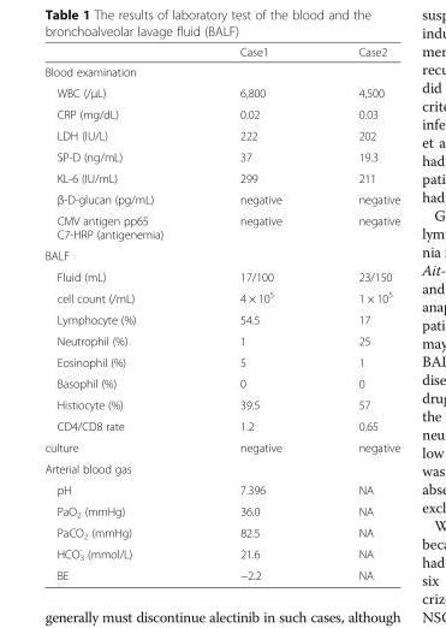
<table><thead><tr><td></td><td>Case1</td><td>Case2</td></tr></thead><tbody><tr><td colspan="3">Blood examination</td></tr><tr><td>WBC (/μL)</td><td>6,800</td><td>4,500</td></tr><tr><td>CRP (mg/dL)</td><td>0.02</td><td>0.03</td></tr><tr><td>LDH (IU/L)</td><td>222</td><td>202</td></tr><tr><td>SP-D (ng/mL)</td><td>37</td><td>19.3</td></tr><tr><td>KL-6 (IU/mL)</td><td>299</td><td>211</td></tr><tr><td>β-D-glucan (pg/mL)</td><td>negative</td><td>negative</td></tr><tr><td>CMV antigen pp65 C7-HRP (antigenemia)</td><td>negative</td><td>negative</td></tr><tr><td colspan="3">BALF</td></tr><tr><td>Fluid (mL)</td><td>17/100</td><td>23/150</td></tr><tr><td>cell count (/mL)</td><td>4 × 10<sup>5</sup></td><td>1 × 10<sup>5</sup></td></tr><tr><td>Lymphocyte (%)</td><td>54.5</td><td>17</td></tr><tr><td>Neutrophil (%)</td><td>1</td><td>25</td></tr><tr><td>Eosinophil (%)</td><td>5</td><td>1</td></tr><tr><td>Basophil (%)</td><td>0</td><td>0</td></tr><tr><td>Histiocyte (%)</td><td>39.5</td><td>57</td></tr><tr><td>CD4/CD8 rate</td><td>1.2</td><td>0.65</td></tr><tr><td>culture</td><td>negative</td><td>negative</td></tr><tr><td colspan="3">Arterial blood gas</td></tr><tr><td>pH</td><td>7.396</td><td>NA</td></tr><tr><td>PaO<sub>2</sub> (mmHg)</td><td>36.0</td><td>NA</td></tr><tr><td>PaCO<sub>2</sub> (mmHg)</td><td>82.5</td><td>NA</td></tr><tr><td>HCO<sub>3</sub> <sup>-</sup> (mmol/L)</td><td>21.6</td><td>NA</td></tr><tr><td>BE</td><td>−2.2</td><td>NA</td></tr></tbody></table>